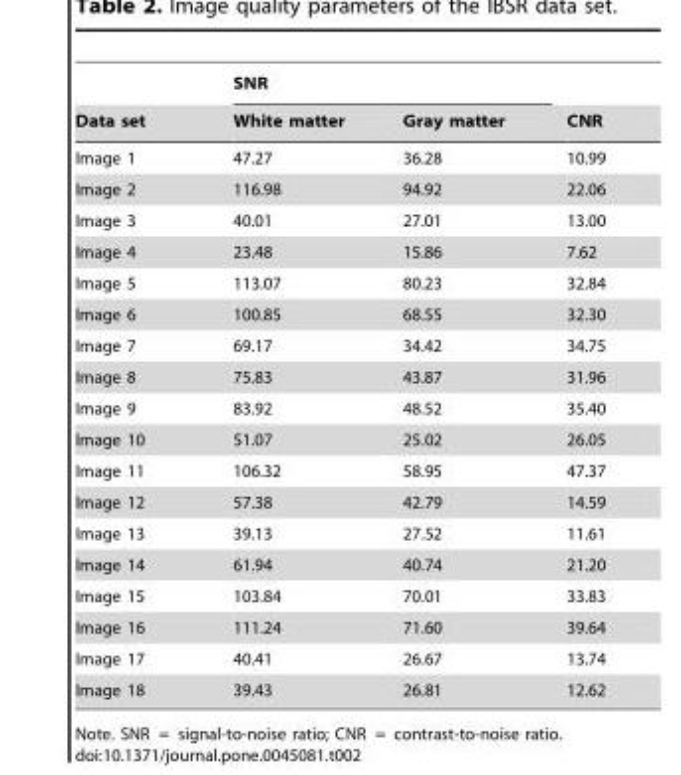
<table><thead><tr><td rowspan="2">Data set</td><td colspan="2">SNR</td><td rowspan="2">CNR</td></tr><tr><td>White matter</td><td>Gray matter</td></tr></thead><tbody><tr><td>Image 1</td><td>47.27</td><td>36.28</td><td>10.99</td></tr><tr><td>Image 2</td><td>116.98</td><td>94.92</td><td>22.06</td></tr><tr><td>Image 3</td><td>40.01</td><td>27.01</td><td>13.00</td></tr><tr><td>Image 4</td><td>23.48</td><td>15.86</td><td>7.62</td></tr><tr><td>Image 5</td><td>113.07</td><td>80.23</td><td>32.84</td></tr><tr><td>Image 6</td><td>100.85</td><td>68.55</td><td>32.30</td></tr><tr><td>Image 7</td><td>69.17</td><td>34.42</td><td>34.75</td></tr><tr><td>Image 8</td><td>75.83</td><td>43.87</td><td>31.96</td></tr><tr><td>Image 9</td><td>83.92</td><td>48.52</td><td>35.40</td></tr><tr><td>Image 10</td><td>51.07</td><td>25.02</td><td>26.05</td></tr><tr><td>Image 11</td><td>106.32</td><td>58.95</td><td>47.37</td></tr><tr><td>Image 12</td><td>57.38</td><td>42.79</td><td>14.59</td></tr><tr><td>Image 13</td><td>39.13</td><td>27.52</td><td>11.61</td></tr><tr><td>Image 14</td><td>61.94</td><td>40.74</td><td>21.20</td></tr><tr><td>Image 15</td><td>103.84</td><td>70.01</td><td>33.83</td></tr><tr><td>Image 16</td><td>111.24</td><td>71.60</td><td>39.64</td></tr><tr><td>Image 17</td><td>40.41</td><td>26.67</td><td>13.74</td></tr><tr><td>Image 18</td><td>39.43</td><td>26.81</td><td>12.62</td></tr></tbody></table>